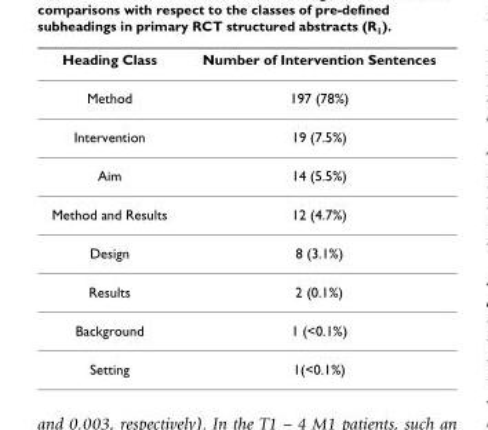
<table><thead><tr><td>Heading Class</td><td>Number of Intervention Sentences</td></tr></thead><tbody><tr><td>Method</td><td>197 (78%)</td></tr><tr><td>Intervention</td><td>19 (7.5%)</td></tr><tr><td>Aim</td><td>14 (5.5%)</td></tr><tr><td>Method and Results</td><td>12 (4.7%)</td></tr><tr><td>Design</td><td>8 (3.1%)</td></tr><tr><td>Results</td><td>2 (0.1%)</td></tr><tr><td>Background</td><td>1 (&lt;0.1%)</td></tr><tr><td>Setting</td><td>1(&lt;0.1%)</td></tr></tbody></table>